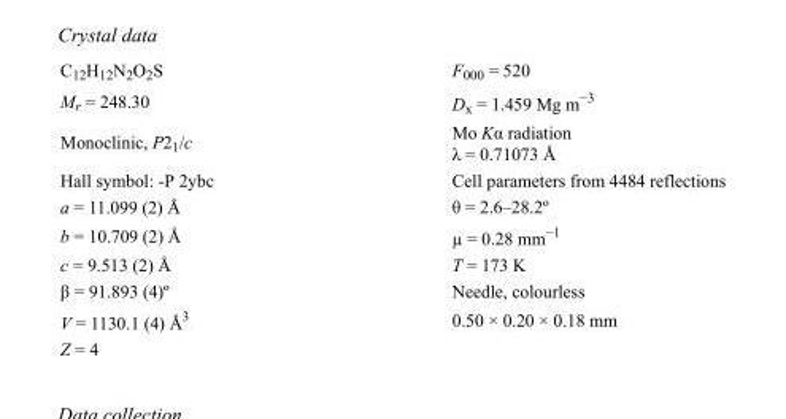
<table><tbody><tr><td>C<sub>12</sub>H<sub>12</sub>N<sub>2</sub>O<sub>2</sub>S</td><td>F000 = 520</td></tr><tr><td>M<sub>r</sub> = 248.30</td><td>D<sub>x</sub> = 1.459 Mg m<sup>−3</sup></td></tr><tr><td>Monoclinic, P2<sub>1</sub>/c</td><td>Mo Kα radiation λ = 0.71073 Å</td></tr><tr><td>Hall symbol: -P 2ybc</td><td>Cell parameters from 4484 reflections</td></tr><tr><td>a = 11.099 (2) Å</td><td>θ = 2.6–28.2º</td></tr><tr><td>b = 10.709 (2) Å</td><td>µ = 0.28 mm<sup>−1</sup></td></tr><tr><td>c = 9.513 (2) Å</td><td>T = 173 K</td></tr><tr><td>β = 91.893 (4)º</td><td>Needle, colourless</td></tr><tr><td>V = 1130.1 (4) Å<sup>3</sup></td><td>0.50 × 0.20 × 0.18 mm</td></tr><tr><td>Z = 4</td><td></td></tr></tbody></table>